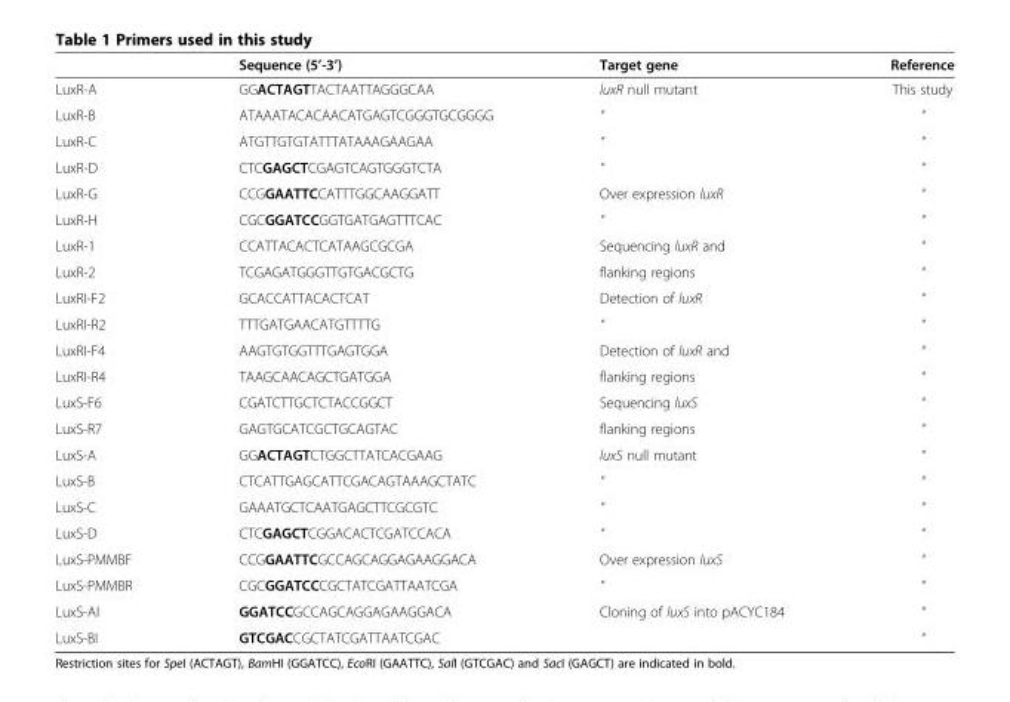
<table><thead><tr><td></td><td>Sequence (5’-3’)</td><td>Target gene</td><td>Reference</td></tr></thead><tbody><tr><td>LuxR-A</td><td>GGACTAGTTACTAATTAGGGCAA</td><td>luxR null mutant</td><td>This study</td></tr><tr><td>LuxR-B</td><td>ATAAATACACAACATGAGTCGGGTGCGGGG</td><td>“</td><td>“</td></tr><tr><td>LuxR-C</td><td>ATGTTGTGTATTTATAAAGAAGAA</td><td>“</td><td>“</td></tr><tr><td>LuxR-D</td><td>CTCGAGCTCGAGTCAGTGGGTCTA</td><td>“</td><td>“</td></tr><tr><td>LuxR-G</td><td>CCGGAATTCCATTTGGCAAGGATT</td><td>Over expression luxR</td><td>“</td></tr><tr><td>LuxR-H</td><td>CGCGGATCCGGTGATGAGTTTCAC</td><td>“</td><td>“</td></tr><tr><td>LuxR-1</td><td>CCATTACACTCATAAGCGCGA</td><td>Sequencing luxR and</td><td>“</td></tr><tr><td>LuxR-2</td><td>TCGAGATGGGTTGTGACGCTG</td><td>flanking regions</td><td>“</td></tr><tr><td>LuxRI-F2</td><td>GCACCATTACACTCAT</td><td>Detection of luxR</td><td>“</td></tr><tr><td>LuxRI-R2</td><td>TTTGATGAACATGTTTTG</td><td>“</td><td>“</td></tr><tr><td>LuxRI-F4</td><td>AAGTGTGGTTTGAGTGGA</td><td>Detection of luxR and</td><td>“</td></tr><tr><td>LuxRI-R4</td><td>TAAGCAACAGCTGATGGA</td><td>flanking regions</td><td>“</td></tr><tr><td>LuxS-F6</td><td>CGATCTTGCTCTACCGGCT</td><td>Sequencing luxS</td><td>“</td></tr><tr><td>LuxS-R7</td><td>GAGTGCATCGCTGCAGTAC</td><td>flanking regions</td><td>“</td></tr><tr><td>LuxS-A</td><td>GGACTAGTCTGGCTTATCACGAAG</td><td>luxS null mutant</td><td>“</td></tr><tr><td>LuxS-B</td><td>CTCATTGAGCATTCGACAGTAAAGCTATC</td><td>“</td><td>“</td></tr><tr><td>LuxS-C</td><td>GAAATGCTCAATGAGCTTCGCGTC</td><td>“</td><td>“</td></tr><tr><td>LuxS-D</td><td>CTCGAGCTCGGACACTCGATCCACA</td><td>“</td><td>“</td></tr><tr><td>LuxS-PMMBF</td><td>CCGGAATTCGCCAGCAGGAGAAGGACA</td><td>Over expression luxS</td><td>“</td></tr><tr><td>LuxS-PMMBR</td><td>CGCGGATCCCGCTATCGATTAATCGA</td><td>“</td><td>“</td></tr><tr><td>LuxS-AI</td><td>GGATCCGCCAGCAGGAGAAGGACA</td><td>Cloning of luxS into pACYC184</td><td>“</td></tr><tr><td>LuxS-BI</td><td>GTCGACCGCTATCGATTAATCGAC</td><td></td><td>“</td></tr></tbody></table>